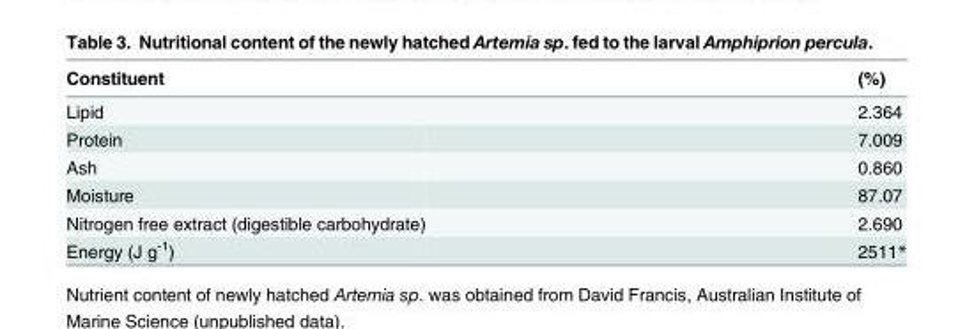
<table><thead><tr><td>Constituent</td><td>(%)</td></tr></thead><tbody><tr><td>Lipid</td><td>2.364</td></tr><tr><td>Protein</td><td>7.009</td></tr><tr><td>Ash</td><td>0.860</td></tr><tr><td>Moisture</td><td>87.07</td></tr><tr><td>Nitrogen free extract (digestible carbohydrate)</td><td>2.690</td></tr><tr><td>Energy (J g<sup>-1</sup>)</td><td>2511*</td></tr></tbody></table>